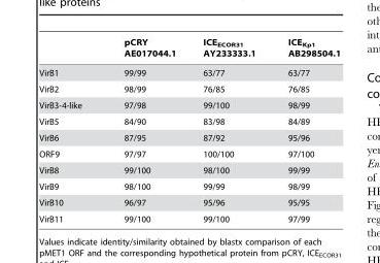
<table><thead><tr><td></td><td>pCRY AE017044.1</td><td>ICE<sub>ECOR31</sub> AY233333.1</td><td>ICE<sub>Kp1</sub> AB298504.1</td></tr></thead><tbody><tr><td>VirB1</td><td>99/99</td><td>63/77</td><td>63/77</td></tr><tr><td>VirB2</td><td>98/99</td><td>76/85</td><td>76/85</td></tr><tr><td>VirB3-4-like</td><td>97/98</td><td>99/100</td><td>98/99</td></tr><tr><td>VirB5</td><td>84/90</td><td>83/98</td><td>84/89</td></tr><tr><td>VirB6</td><td>87/95</td><td>87/92</td><td>95/96</td></tr><tr><td>ORF9</td><td>97/97</td><td>100/100</td><td>97/100</td></tr><tr><td>VirB8</td><td>99/100</td><td>98/100</td><td>99/99</td></tr><tr><td>VirB9</td><td>98/100</td><td>99/99</td><td>98/99</td></tr><tr><td>VirB10</td><td>96/97</td><td>95/96</td><td>95/95</td></tr><tr><td>VirB11</td><td>99/100</td><td>99/100</td><td>97/99</td></tr></tbody></table>